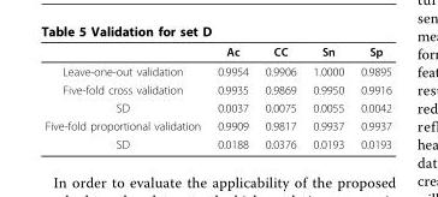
<table><thead><tr><td></td><td>Ac</td><td>CC</td><td>Sn</td><td>Sp</td></tr></thead><tbody><tr><td>Leave-one-out validation</td><td>0.9954</td><td>0.9906</td><td>1.0000</td><td>0.9895</td></tr><tr><td>Five-fold cross validation</td><td>0.9935</td><td>0.9869</td><td>0.9950</td><td>0.9916</td></tr><tr><td>SD</td><td>0.0037</td><td>0.0075</td><td>0.0055</td><td>0.0042</td></tr><tr><td>Five-fold proportional validation</td><td>0.9909</td><td>0.9817</td><td>0.9937</td><td>0.9937</td></tr><tr><td>SD</td><td>0.0188</td><td>0.0376</td><td>0.0193</td><td>0.0193</td></tr></tbody></table>